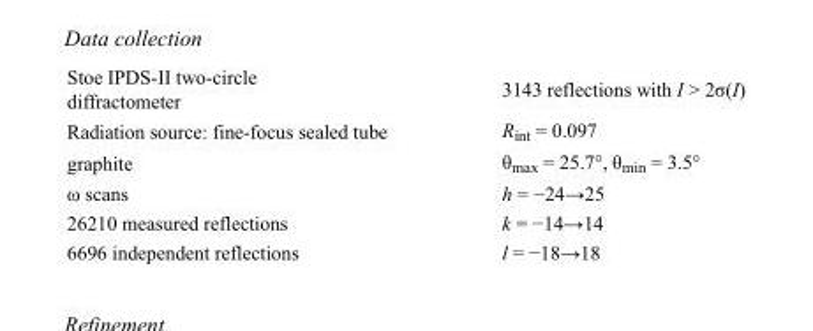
<table><tbody><tr><td>Stoe IPDS-II two-circle diffractometer</td><td>3143 reflections with I &gt; 2σ(I)</td></tr><tr><td>Radiation source: fine-focus sealed tube</td><td>R<sub>int</sub> = 0.097</td></tr><tr><td>graphite</td><td>θ<sub>max</sub> = 25.7°, θ<sub>min</sub> = 3.5°</td></tr><tr><td>ω scans</td><td>h = −24→25</td></tr><tr><td>26210 measured reflections</td><td>k = −14→14</td></tr><tr><td>6696 independent reflections</td><td>l = −18→18</td></tr></tbody></table>